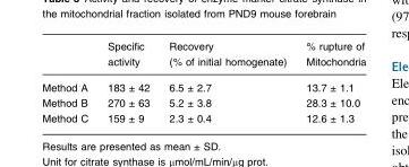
<table><thead><tr><td></td><td>Specific activity</td><td>Recovery (% of initial homogenate)</td><td>% rupture of Mitochondria</td></tr></thead><tbody><tr><td>Method A</td><td>183 ± 42</td><td>6.5 ± 2.7</td><td>13.7 ± 1.1</td></tr><tr><td>Method B</td><td>270 ± 63</td><td>5.2 ± 3.8</td><td>28.3 ± 10.0</td></tr><tr><td>Method C</td><td>159 ± 9</td><td>2.3 ± 0.4</td><td>12.6 ± 1.3</td></tr></tbody></table>